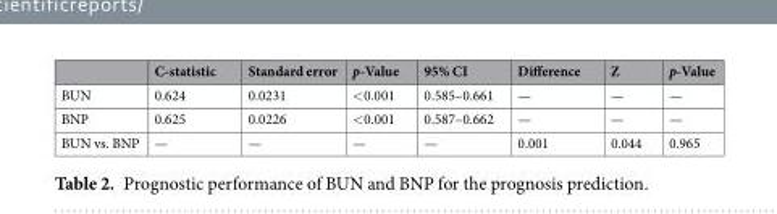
<table><thead><tr><td></td><td>C-statistic</td><td>Standard error</td><td>p-Value</td><td>95% CI</td><td>Difference</td><td>Z</td><td>p-Value</td></tr></thead><tbody><tr><td>BUN</td><td>0.624</td><td>0.0231</td><td>&lt;0.001</td><td>0.585–0.661</td><td>—</td><td>—</td><td>—</td></tr><tr><td>BNP</td><td>0.625</td><td>0.0226</td><td>&lt;0.001</td><td>0.587–0.662</td><td>—</td><td>—</td><td>—</td></tr><tr><td>BUN vs. BNP</td><td>—</td><td>—</td><td>—</td><td>—</td><td>0.001</td><td>0.044</td><td>0.965</td></tr></tbody></table>